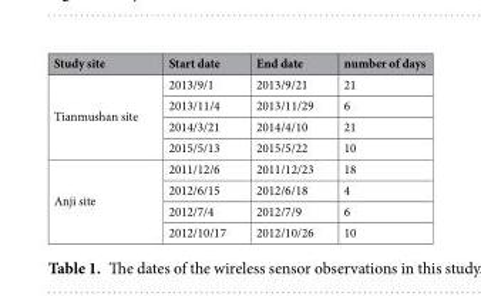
<table><thead><tr><td>Study site</td><td>Start date</td><td>End date</td><td>number of days</td></tr></thead><tbody><tr><td rowspan="4">Tianmushan site</td><td>2013/9/1</td><td>2013/9/21</td><td>21</td></tr><tr><td>2013/11/4</td><td>2013/11/29</td><td>6</td></tr><tr><td>2014/3/21</td><td>2014/4/10</td><td>21</td></tr><tr><td>2015/5/13</td><td>2015/5/22</td><td>10</td></tr><tr><td rowspan="4">Anji site</td><td>2011/12/6</td><td>2011/12/23</td><td>18</td></tr><tr><td>2012/6/15</td><td>2012/6/18</td><td>4</td></tr><tr><td>2012/7/4</td><td>2012/7/9</td><td>6</td></tr><tr><td>2012/10/17</td><td>2012/10/26</td><td>10</td></tr></tbody></table>